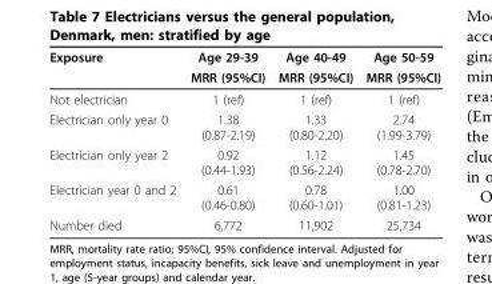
<table><thead><tr><td rowspan="2">Exposure</td><td rowspan="2">Age 29-39 MRR (95%CI)</td><td rowspan="2">Age 40-49 MRR (95%CI)</td><td rowspan="2">Age 50-59 MRR (95%CI)</td></tr><tr></tr></thead><tbody><tr><td>Not electrician</td><td>1 (ref)</td><td>1 (ref)</td><td>1 (ref)</td></tr><tr><td>Electrician only year 0</td><td>1.38 (0.87-2.19)</td><td>1.33 (0.80-2.20)</td><td>2.74 (1.99-3.79)</td></tr><tr><td>Electrician only year 2</td><td>0.92 (0.44-1.93)</td><td>1.12 (0.56-2.24)</td><td>1.45 (0.78-2.70)</td></tr><tr><td>Electrician year 0 and 2</td><td>0.61 (0.46-0.80)</td><td>0.78 (0.60-1.01)</td><td>1.00 (0.81-1.23)</td></tr><tr><td>Number died</td><td>6,772</td><td>11,902</td><td>25,734</td></tr></tbody></table>